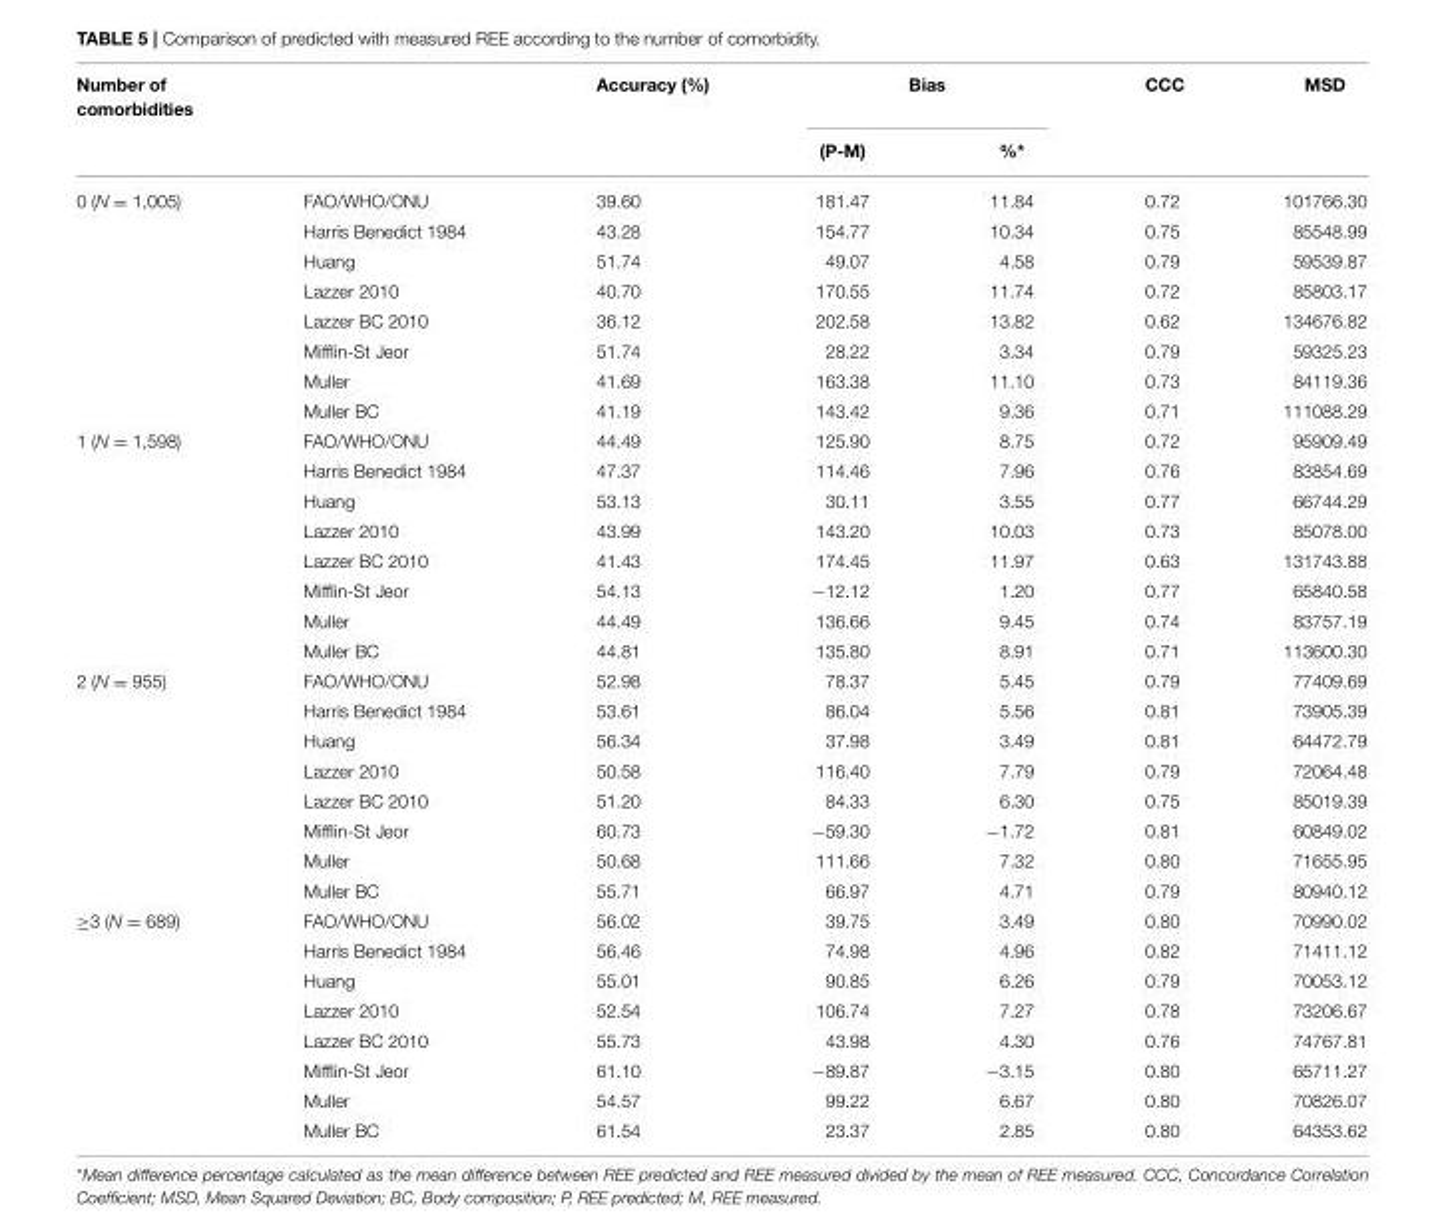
<table><thead><tr><td rowspan="2">Number of comorbidities</td><td rowspan="2"></td><td rowspan="2">Accuracy (%)</td><td colspan="2">Bias</td><td rowspan="2">CCC</td><td rowspan="2">MSD</td></tr><tr><td>(P-M)</td><td>%*</td></tr></thead><tbody><tr><td rowspan="8">0 (N = 1,005)</td><td>FAO/WHO/ONU</td><td>39.60</td><td>181.47</td><td>11.84</td><td>0.72</td><td>101766.30</td></tr><tr><td>Harris Benedict 1984</td><td>43.28</td><td>154.77</td><td>10.34</td><td>0.75</td><td>85548.99</td></tr><tr><td>Huang</td><td>51.74</td><td>49.07</td><td>4.58</td><td>0.79</td><td>59539.87</td></tr><tr><td>Lazzer 2010</td><td>40.70</td><td>170.55</td><td>11.74</td><td>0.72</td><td>85803.17</td></tr><tr><td>Lazzer BC 2010</td><td>36.12</td><td>202.58</td><td>13.82</td><td>0.62</td><td>134676.82</td></tr><tr><td>Mifflin-St Jeor</td><td>51.74</td><td>28.22</td><td>3.34</td><td>0.79</td><td>59325.23</td></tr><tr><td>Muller</td><td>41.69</td><td>163.38</td><td>11.10</td><td>0.73</td><td>84119.36</td></tr><tr><td>Muller BC</td><td>41.19</td><td>143.42</td><td>9.36</td><td>0.71</td><td>111088.29</td></tr><tr><td rowspan="8">1 (N = 1,598)</td><td>FAO/WHO/ONU</td><td>44.49</td><td>125.90</td><td>8.75</td><td>0.72</td><td>95909.49</td></tr><tr><td>Harris Benedict 1984</td><td>47.37</td><td>114.46</td><td>7.96</td><td>0.76</td><td>83854.69</td></tr><tr><td>Huang</td><td>53.13</td><td>30.11</td><td>3.55</td><td>0.77</td><td>66744.29</td></tr><tr><td>Lazzer 2010</td><td>43.99</td><td>143.20</td><td>10.03</td><td>0.73</td><td>85078.00</td></tr><tr><td>Lazzer BC 2010</td><td>41.43</td><td>174.45</td><td>11.97</td><td>0.63</td><td>131743.88</td></tr><tr><td>Mifflin-St Jeor</td><td>54.13</td><td>−12.12</td><td>1.20</td><td>0.77</td><td>65840.58</td></tr><tr><td>Muller</td><td>44.49</td><td>136.66</td><td>9.45</td><td>0.74</td><td>83757.19</td></tr><tr><td>Muller BC</td><td>44.81</td><td>135.80</td><td>8.91</td><td>0.71</td><td>113600.30</td></tr><tr><td rowspan="8">2 (N = 955)</td><td>FAO/WHO/ONU</td><td>52.98</td><td>78.37</td><td>5.45</td><td>0.79</td><td>77409.69</td></tr><tr><td>Harris Benedict 1984</td><td>53.61</td><td>86.04</td><td>5.56</td><td>0.81</td><td>73905.39</td></tr><tr><td>Huang</td><td>56.34</td><td>37.98</td><td>3.49</td><td>0.81</td><td>64472.79</td></tr><tr><td>Lazzer 2010</td><td>50.58</td><td>116.40</td><td>7.79</td><td>0.79</td><td>72064.48</td></tr><tr><td>Lazzer BC 2010</td><td>51.20</td><td>84.33</td><td>6.30</td><td>0.75</td><td>85019.39</td></tr><tr><td>Mifflin-St Jeor</td><td>60.73</td><td>−59.30</td><td>−1.72</td><td>0.81</td><td>60849.02</td></tr><tr><td>Muller</td><td>50.68</td><td>111.66</td><td>7.32</td><td>0.80</td><td>71655.95</td></tr><tr><td>Muller BC</td><td>55.71</td><td>66.97</td><td>4.71</td><td>0.79</td><td>80940.12</td></tr><tr><td rowspan="8">≥3 (N = 689)</td><td>FAO/WHO/ONU</td><td>56.02</td><td>39.75</td><td>3.49</td><td>0.80</td><td>70990.02</td></tr><tr><td>Harris Benedict 1984</td><td>56.46</td><td>74.98</td><td>4.96</td><td>0.82</td><td>71411.12</td></tr><tr><td>Huang</td><td>55.01</td><td>90.85</td><td>6.26</td><td>0.79</td><td>70053.12</td></tr><tr><td>Lazzer 2010</td><td>52.54</td><td>106.74</td><td>7.27</td><td>0.78</td><td>73206.67</td></tr><tr><td>Lazzer BC 2010</td><td>55.73</td><td>43.98</td><td>4.30</td><td>0.76</td><td>74767.81</td></tr><tr><td>Mifflin-St Jeor</td><td>61.10</td><td>−89.87</td><td>−3.15</td><td>0.80</td><td>65711.27</td></tr><tr><td>Muller</td><td>54.57</td><td>99.22</td><td>6.67</td><td>0.80</td><td>70826.07</td></tr><tr><td>Muller BC</td><td>61.54</td><td>23.37</td><td>2.85</td><td>0.80</td><td>64353.62</td></tr></tbody></table>